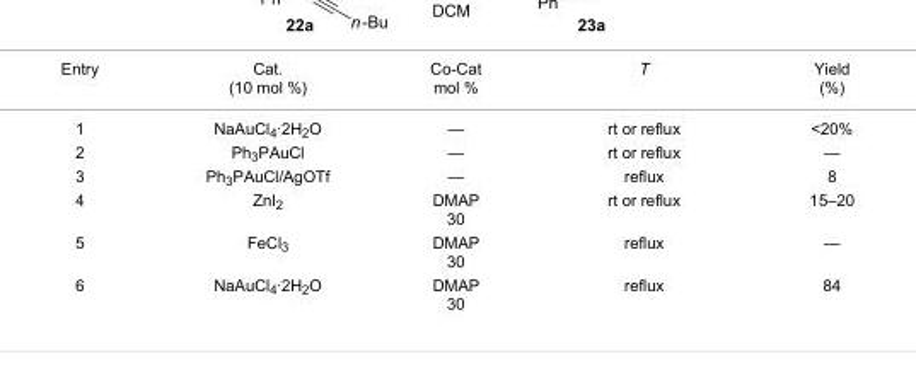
<table><tbody><tr><td>Entry</td><td>Cat. (10 mol %)</td><td>Co-Cat mol %</td><td>T</td><td>Yield (%)</td></tr><tr><td>1</td><td>NaAuCl<sub>4</sub>·2H<sub>2</sub>O</td><td>—</td><td>rt or reflux</td><td>&lt;20%</td></tr><tr><td>2</td><td>Ph<sub>3</sub>PAuCl</td><td>—</td><td>rt or reflux</td><td>—</td></tr><tr><td>3</td><td>Ph<sub>3</sub>PAuCl/AgOTf</td><td>—</td><td>reflux</td><td>8</td></tr><tr><td>4</td><td>ZnI<sub>2</sub></td><td>DMAP 30</td><td>rt or reflux</td><td>15–20</td></tr><tr><td>5</td><td>FeCl<sub>3</sub></td><td>DMAP 30</td><td>reflux</td><td>—</td></tr><tr><td>6</td><td>NaAuCl<sub>4</sub>·2H<sub>2</sub>O</td><td>DMAP 30</td><td>reflux</td><td>84</td></tr></tbody></table>